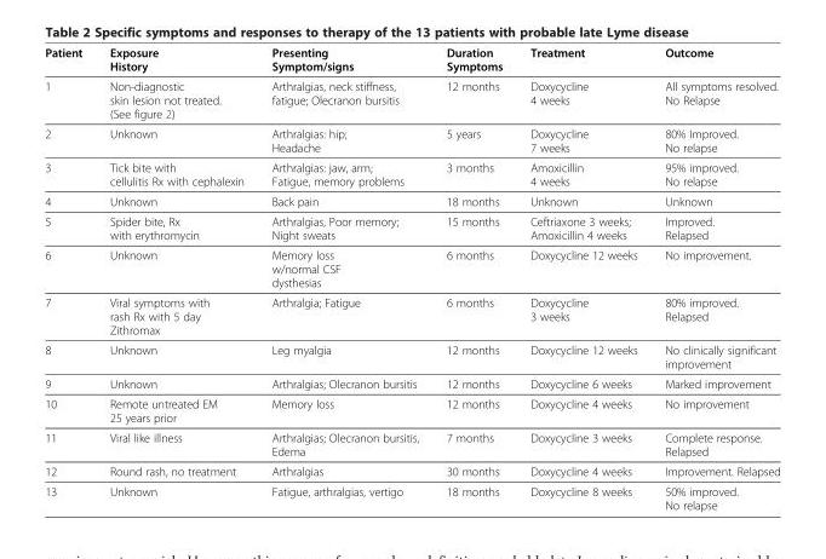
<table><thead><tr><td>Patient</td><td>Exposure History</td><td>Presenting Symptom/signs</td><td>Duration Symptoms</td><td>Treatment</td><td>Outcome</td></tr></thead><tbody><tr><td>1</td><td>Non-diagnostic skin lesion not treated. (See figure 2)</td><td>Arthralgias, neck stiffness, fatigue; Olecranon bursitis</td><td>12 months</td><td>Doxycycline 4 weeks</td><td>All symptoms resolved. No Relapse</td></tr><tr><td>2</td><td>Unknown</td><td>Arthralgias: hip; Headache</td><td>5 years</td><td>Doxycycline 7 weeks</td><td>80% Improved. No relapse</td></tr><tr><td>3</td><td>Tick bite with cellulitis Rx with cephalexin</td><td>Arthralgias: jaw, arm; Fatigue, memory problems</td><td>3 months</td><td>Amoxicillin 4 weeks</td><td>95% improved. No relapse</td></tr><tr><td>4</td><td>Unknown</td><td>Back pain</td><td>18 months</td><td>Unknown</td><td>Unknown</td></tr><tr><td>5</td><td>Spider bite, Rx with erythromycin</td><td>Arthralgias, Poor memory; Night sweats</td><td>15 months</td><td>Ceftriaxone 3 weeks; Amoxicillin 4 weeks</td><td>Improved. Relapsed</td></tr><tr><td>6</td><td>Unknown</td><td>Memory loss w/normal CSF dysthesias</td><td>6 months</td><td>Doxycycline 12 weeks</td><td>No improvement.</td></tr><tr><td>7</td><td>Viral symptoms with rash Rx with 5 day Zithromax</td><td>Arthralgia; Fatigue</td><td>6 months</td><td>Doxycycline 3 weeks</td><td>80% improved. Relapsed</td></tr><tr><td>8</td><td>Unknown</td><td>Leg myalgia</td><td>12 months</td><td>Doxycycline 12 weeks</td><td>No clinically significant improvement</td></tr><tr><td>9</td><td>Unknown</td><td>Arthralgias; Olecranon bursitis</td><td>12 months</td><td>Doxycycline 6 weeks</td><td>Marked improvement</td></tr><tr><td>10</td><td>Remote untreated EM 25 years prior</td><td>Memory loss</td><td>12 months</td><td>Doxycycline 4 weeks</td><td>No improvement</td></tr><tr><td>11</td><td>Viral like illness</td><td>Arthralgias; Olecranon bursitis, Edema</td><td>7 months</td><td>Doxycycline 3 weeks</td><td>Complete response. Relapsed</td></tr><tr><td>12</td><td>Round rash, no treatment</td><td>Arthralgias</td><td>30 months</td><td>Doxycycline 4 weeks</td><td>Improvement. Relapsed</td></tr><tr><td>13</td><td>Unknown</td><td>Fatigue, arthralgias, vertigo</td><td>18 months</td><td>Doxycycline 8 weeks</td><td>50% improved. No relapse</td></tr></tbody></table>